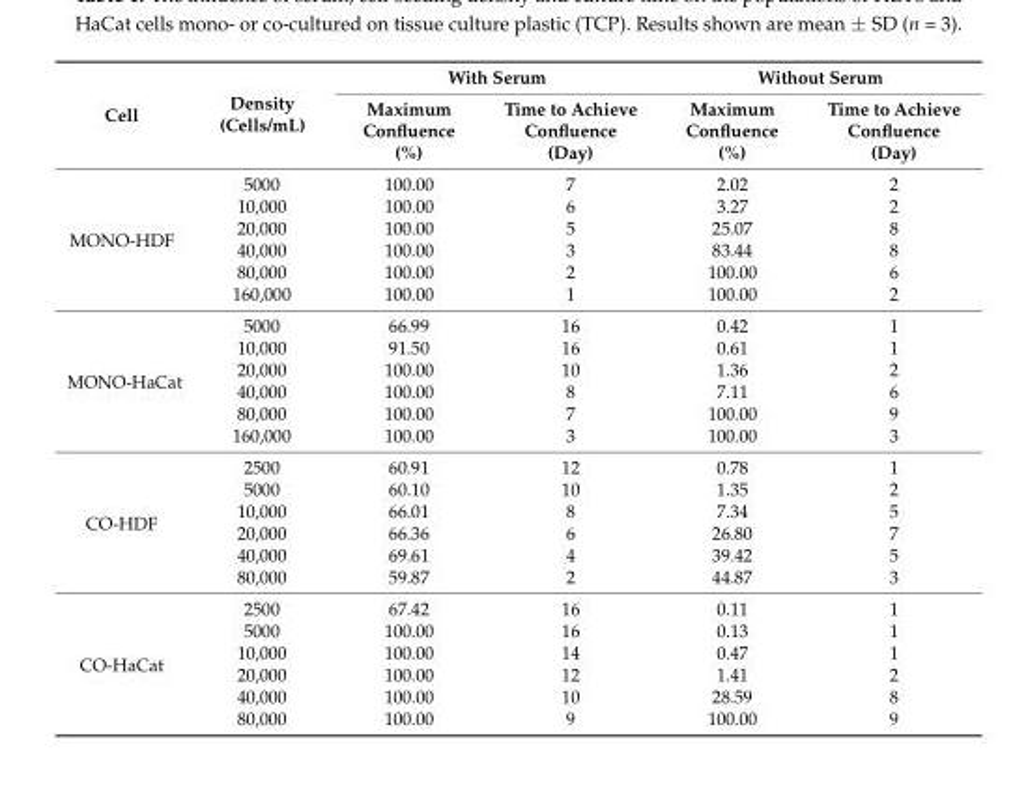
<table><thead><tr><td rowspan="2">Cell</td><td rowspan="2">Density (Cells/mL)</td><td colspan="2">With Serum</td><td colspan="2">Without Serum</td></tr><tr><td>Maximum Confluence (%)</td><td>Time to Achieve Confluence (Day)</td><td>Maximum Confluence (%)</td><td>Time to Achieve Confluence (Day)</td></tr></thead><tbody><tr><td rowspan="6">MONO-HDF</td><td>5000</td><td>100.00</td><td>7</td><td>2.02</td><td>2</td></tr><tr><td>10,000</td><td>100.00</td><td>6</td><td>3.27</td><td>2</td></tr><tr><td>20,000</td><td>100.00</td><td>5</td><td>25.07</td><td>8</td></tr><tr><td>40,000</td><td>100.00</td><td>3</td><td>83.44</td><td>8</td></tr><tr><td>80,000</td><td>100.00</td><td>2</td><td>100.00</td><td>6</td></tr><tr><td>160,000</td><td>100.00</td><td>1</td><td>100.00</td><td>2</td></tr><tr><td rowspan="6">MONO-HaCat</td><td>5000</td><td>66.99</td><td>16</td><td>0.42</td><td>1</td></tr><tr><td>10,000</td><td>91.50</td><td>16</td><td>0.61</td><td>1</td></tr><tr><td>20,000</td><td>100.00</td><td>10</td><td>1.36</td><td>2</td></tr><tr><td>40,000</td><td>100.00</td><td>8</td><td>7.11</td><td>6</td></tr><tr><td>80,000</td><td>100.00</td><td>7</td><td>100.00</td><td>9</td></tr><tr><td>160,000</td><td>100.00</td><td>3</td><td>100.00</td><td>3</td></tr><tr><td rowspan="6">CO-HDF</td><td>2500</td><td>60.91</td><td>12</td><td>0.78</td><td>1</td></tr><tr><td>5000</td><td>60.10</td><td>10</td><td>1.35</td><td>2</td></tr><tr><td>10,000</td><td>66.01</td><td>8</td><td>7.34</td><td>5</td></tr><tr><td>20,000</td><td>66.36</td><td>6</td><td>26.80</td><td>7</td></tr><tr><td>40,000</td><td>69.61</td><td>4</td><td>39.42</td><td>5</td></tr><tr><td>80,000</td><td>59.87</td><td>2</td><td>44.87</td><td>3</td></tr><tr><td rowspan="6">CO-HaCat</td><td>2500</td><td>67.42</td><td>16</td><td>0.11</td><td>1</td></tr><tr><td>5000</td><td>100.00</td><td>16</td><td>0.13</td><td>1</td></tr><tr><td>10,000</td><td>100.00</td><td>14</td><td>0.47</td><td>1</td></tr><tr><td>20,000</td><td>100.00</td><td>12</td><td>1.41</td><td>2</td></tr><tr><td>40,000</td><td>100.00</td><td>10</td><td>28.59</td><td>8</td></tr><tr><td>80,000</td><td>100.00</td><td>9</td><td>100.00</td><td>9</td></tr></tbody></table>